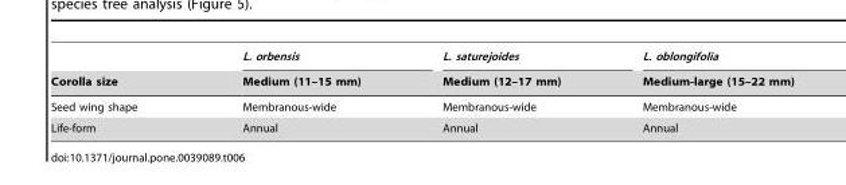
<table><thead><tr><td rowspan="2">Corolla size</td><td rowspan="2">L. orbensis Medium (11–15 mm)</td><td rowspan="2">L. saturejoides Medium (12–17 mm)</td><td rowspan="2">L. oblongifolia Medium-large (15–22 mm)</td></tr><tr></tr></thead><tbody><tr><td>Seed wing shape</td><td>Membranous-wide</td><td>Membranous-wide</td><td>Membranous-wide</td></tr><tr><td>Life-form</td><td>Annual</td><td>Annual</td><td>Annual</td></tr></tbody></table>